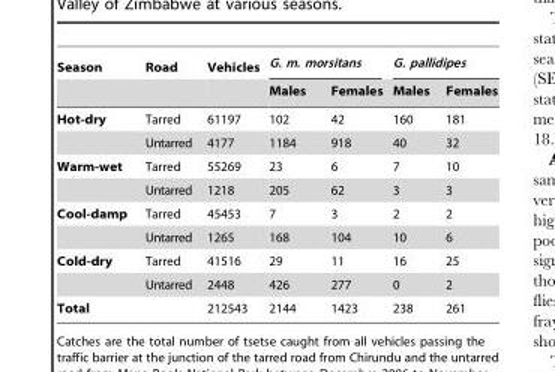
<table><thead><tr><td rowspan="2">Season</td><td rowspan="2">Road</td><td rowspan="2">Vehicles</td><td colspan="2">G. m. morsitans</td><td colspan="2">G. pallidipes</td></tr><tr><td>Males</td><td>Females</td><td>Males</td><td>Females</td></tr></thead><tbody><tr><td rowspan="2">Hot-dry</td><td>Tarred</td><td>61197</td><td>102</td><td>42</td><td>160</td><td>181</td></tr><tr><td>Untarred</td><td>4177</td><td>1184</td><td>918</td><td>40</td><td>32</td></tr><tr><td rowspan="2">Warm-wet</td><td>Tarred</td><td>55269</td><td>23</td><td>6</td><td>7</td><td>10</td></tr><tr><td>Untarred</td><td>1218</td><td>205</td><td>62</td><td>3</td><td>3</td></tr><tr><td rowspan="2">Cool-damp</td><td>Tarred</td><td>45453</td><td>7</td><td>3</td><td>2</td><td>2</td></tr><tr><td>Untarred</td><td>1265</td><td>168</td><td>104</td><td>10</td><td>6</td></tr><tr><td rowspan="2">Cold-dry</td><td>Tarred</td><td>41516</td><td>29</td><td>11</td><td>16</td><td>25</td></tr><tr><td>Untarred</td><td>2448</td><td>426</td><td>277</td><td>0</td><td>2</td></tr><tr><td>Total</td><td></td><td>212543</td><td>2144</td><td>1423</td><td>238</td><td>261</td></tr></tbody></table>